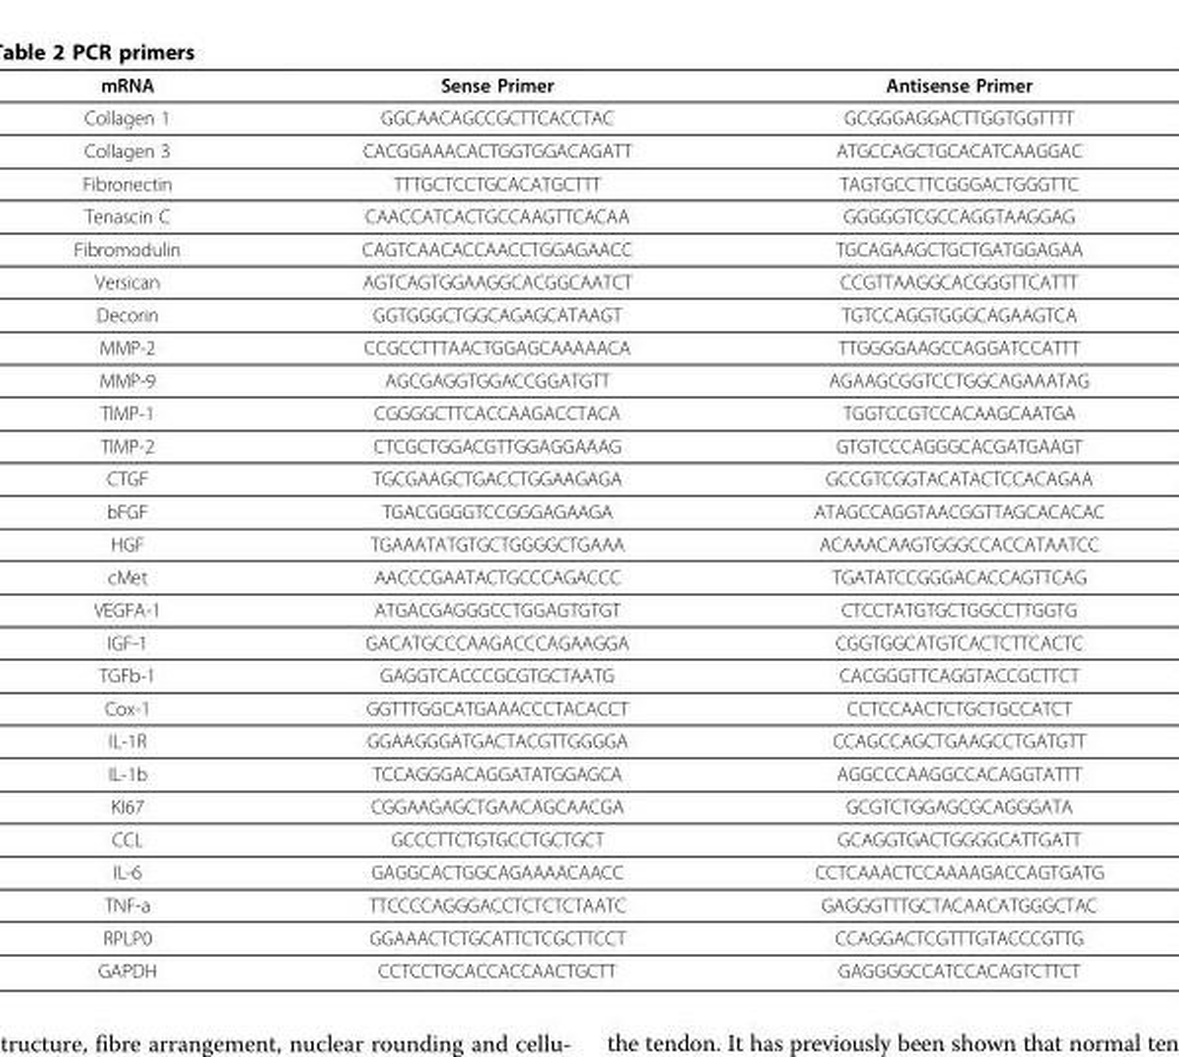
<table><thead><tr><td>mRNA</td><td>Sense Primer</td><td>Antisense Primer</td></tr></thead><tbody><tr><td>Collagen 1</td><td>GGCAACAGCCGCTTCACCTAC</td><td>GCGGGAGGACTTGGTGGTTTT</td></tr><tr><td>Collagen 3</td><td>CACGGAAACACTGGTGGACAGATT</td><td>ATGCCAGCTGCACATCAAGGAC</td></tr><tr><td>Fibronectin</td><td>TTTGCTCCTGCACATGCTTT</td><td>TAGTGCCTTCGGGACTGGGTTC</td></tr><tr><td>Tenascin C</td><td>CAACCATCACTGCCAAGTTCACAA</td><td>GGGGGTCGCCAGGTAAGGAG</td></tr><tr><td>Fibromodulin</td><td>CAGTCAACACCAACCTGGAGAACC</td><td>TGCAGAAGCTGCTGATGGAGAA</td></tr><tr><td>Versican</td><td>AGTCAGTGGAAGGCACGGCAATCT</td><td>CCGTTAAGGCACGGGTTCATTT</td></tr><tr><td>Decorin</td><td>GGTGGGCTGGCAGAGCATAAGT</td><td>TGTCCAGGTGGGCAGAAGTCA</td></tr><tr><td>MMP-2</td><td>CCGCCTTTAACTGGAGCAAAAACA</td><td>TTGGGGAAGCCAGGATCCATTT</td></tr><tr><td>MMP-9</td><td>AGCGAGGTGGACCGGATGTT</td><td>AGAAGCGGTCCTGGCAGAAATAG</td></tr><tr><td>TIMP-1</td><td>CGGGGCTTCACCAAGACCTACA</td><td>TGGTCCGTCCACAAGCAATGA</td></tr><tr><td>TIMP-2</td><td>CTCGCTGGACGTTGGAGGAAAG</td><td>GTGTCCCAGGGCACGATGAAGT</td></tr><tr><td>CTGF</td><td>TGCGAAGCTGACCTGGAAGAGA</td><td>GCCGTCGGTACATACTCCACAGAA</td></tr><tr><td>bFGF</td><td>TGACGGGGTCCGGGAGAAGA</td><td>ATAGCCAGGTAACGGTTAGCACACAC</td></tr><tr><td>HGF</td><td>TGAAATATGTGCTGGGGCTGAAA</td><td>ACAAACAAGTGGGCCACCATAATCC</td></tr><tr><td>cMet</td><td>AACCCGAATACTGCCCAGACCC</td><td>TGATATCCGGGACACCAGTTCAG</td></tr><tr><td>VEGFA-1</td><td>ATGACGAGGGCCTGGAGTGTGT</td><td>CTCCTATGTGCTGGCCTTGGTG</td></tr><tr><td>IGF-1</td><td>GACATGCCCAAGACCCAGAAGGA</td><td>CGGTGGCATGTCACTCTTCACTC</td></tr><tr><td>TGFb-1</td><td>GAGGTCACCCGCGTGCTAATG</td><td>CACGGGTTCAGGTACCGCTTCT</td></tr><tr><td>Cox-1</td><td>GGTTTGGCATGAAACCCTACACCT</td><td>CCTCCAACTCTGCTGCCATCT</td></tr><tr><td>IL-1R</td><td>GGAAGGGATGACTACGTTGGGGA</td><td>CCAGCCAGCTGAAGCCTGATGTT</td></tr><tr><td>IL-1b</td><td>TCCAGGGACAGGATATGGAGCA</td><td>AGGCCCAAGGCCACAGGTATTT</td></tr><tr><td>KI67</td><td>CGGAAGAGCTGAACAGCAACGA</td><td>GCGTCTGGAGCGCAGGGATA</td></tr><tr><td>CCL</td><td>GCCCTTCTGTGCCTGCTGCT</td><td>GCAGGTGACTGGGGCATTGATT</td></tr><tr><td>IL-6</td><td>GAGGCACTGGCAGAAAACAACC</td><td>CCTCAAACTCCAAAAGACCAGTGATG</td></tr><tr><td>TNF-a</td><td>TTCCCCAGGGACCTCTCTCTAATC</td><td>GAGGGTTTGCTACAACATGGGCTAC</td></tr><tr><td>RPLP0</td><td>GGAAACTCTGCATTCTCGCTTCCT</td><td>CCAGGACTCGTTTGTACCCGTTG</td></tr><tr><td>GAPDH</td><td>CCTCCTGCACCACCAACTGCTT</td><td>GAGGGGCCATCCACAGTCTTCT</td></tr></tbody></table>